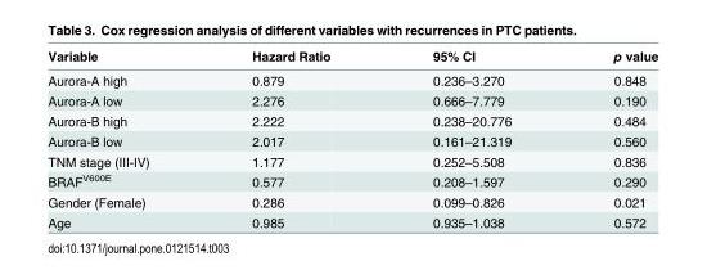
<table><thead><tr><td>Variable</td><td>Hazard Ratio</td><td>95% CI</td><td>p value</td></tr></thead><tbody><tr><td>Aurora-A high</td><td>0.879</td><td>0.236–3.270</td><td>0.848</td></tr><tr><td>Aurora-A low</td><td>2.276</td><td>0.666–7.779</td><td>0.190</td></tr><tr><td>Aurora-B high</td><td>2.222</td><td>0.238–20.776</td><td>0.484</td></tr><tr><td>Aurora-B low</td><td>2.017</td><td>0.161–21.319</td><td>0.560</td></tr><tr><td>TNM stage (III-IV)</td><td>1.177</td><td>0.252–5.508</td><td>0.836</td></tr><tr><td>BRAF<sup>V600E</sup></td><td>0.577</td><td>0.208–1.597</td><td>0.290</td></tr><tr><td>Gender (Female)</td><td>0.286</td><td>0.099–0.826</td><td>0.021</td></tr><tr><td>Age</td><td>0.985</td><td>0.935–1.038</td><td>0.572</td></tr></tbody></table>